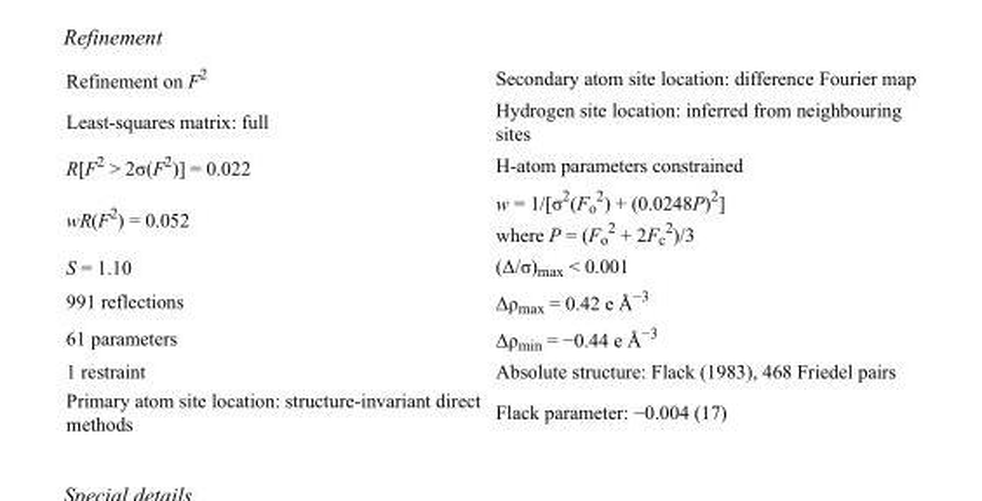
<table><tbody><tr><td>Refinement on F<sup>2</sup></td><td>Secondary atom site location: difference Fourier map</td></tr><tr><td>Least-squares matrix: full</td><td>Hydrogen site location: inferred from neighbouring sites</td></tr><tr><td>R[F<sup>2</sup> &gt; 2σ(F<sup>2</sup>)] = 0.022</td><td>H-atom parameters constrained</td></tr><tr><td>wR(F<sup>2</sup>) = 0.052</td><td>w = 1/[σ<sup>2</sup>(F<sub>o</sub> <sup>2</sup>) + (0.0248P)<sup>2</sup>] where P = (F<sub>o</sub> <sup>2</sup> + 2F<sub>c</sub> <sup>2</sup>)/3</td></tr><tr><td>S = 1.10</td><td>(Δ/σ)<sub>max</sub> &lt; 0.001</td></tr><tr><td>991 reflections</td><td>Δρ<sub>max</sub> = 0.42 e Å<sup>−3</sup></td></tr><tr><td>61 parameters</td><td>Δρ<sub>min</sub> = −0.44 e Å<sup>−3</sup></td></tr><tr><td>1 restraint</td><td>Absolute structure: Flack (1983), 468 Friedel pairs</td></tr><tr><td>Primary atom site location: structure-invariant direct methods</td><td>Flack parameter: −0.004 (17)</td></tr></tbody></table>